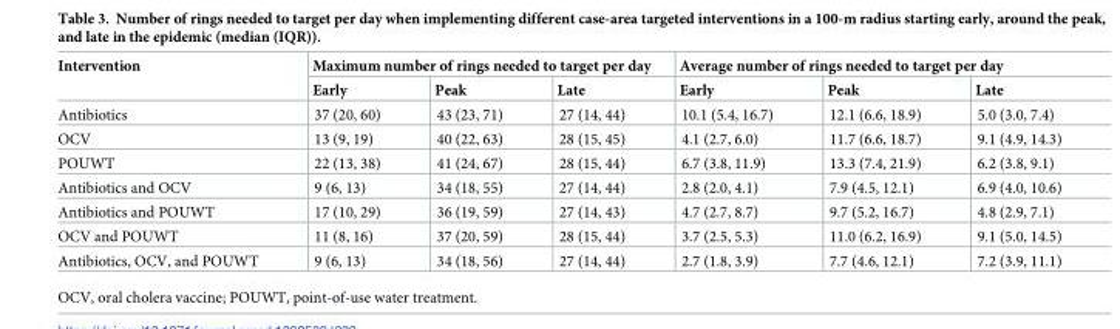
<table><thead><tr><td rowspan="2">Intervention</td><td colspan="3">Maximum number of rings needed to target per day</td><td colspan="3">Average number of rings needed to target per day</td></tr><tr><td>Early</td><td>Peak</td><td>Late</td><td>Early</td><td>Peak</td><td>Late</td></tr></thead><tbody><tr><td>Antibiotics</td><td>37 (20, 60)</td><td>43 (23, 71)</td><td>27 (14, 44)</td><td>10.1 (5.4, 16.7)</td><td>12.1 (6.6, 18.9)</td><td>5.0 (3.0, 7.4)</td></tr><tr><td>OCV</td><td>13 (9, 19)</td><td>40 (22, 63)</td><td>28 (15, 45)</td><td>4.1 (2.7, 6.0)</td><td>11.7 (6.6, 18.7)</td><td>9.1 (4.9, 14.3)</td></tr><tr><td>POUWT</td><td>22 (13, 38)</td><td>41 (24, 67)</td><td>28 (15, 44)</td><td>6.7 (3.8, 11.9)</td><td>13.3 (7.4, 21.9)</td><td>6.2 (3.8, 9.1)</td></tr><tr><td>Antibiotics and OCV</td><td>9 (6, 13)</td><td>34 (18, 55)</td><td>27 (14, 44)</td><td>2.8 (2.0, 4.1)</td><td>7.9 (4.5, 12.1)</td><td>6.9 (4.0, 10.6)</td></tr><tr><td>Antibiotics and POUWT</td><td>17 (10, 29)</td><td>36 (19, 59)</td><td>27 (14, 43)</td><td>4.7 (2.7, 8.7)</td><td>9.7 (5.2, 16.7)</td><td>4.8 (2.9, 7.1)</td></tr><tr><td>OCV and POUWT</td><td>11 (8, 16)</td><td>37 (20, 59)</td><td>28 (15, 44)</td><td>3.7 (2.5, 5.3)</td><td>11.0 (6.2, 16.9)</td><td>9.1 (5.0, 14.5)</td></tr><tr><td>Antibiotics, OCV, and POUWT</td><td>9 (6, 13)</td><td>34 (18, 56)</td><td>27 (14, 44)</td><td>2.7 (1.8, 3.9)</td><td>7.7 (4.6, 12.1)</td><td>7.2 (3.9, 11.1)</td></tr></tbody></table>